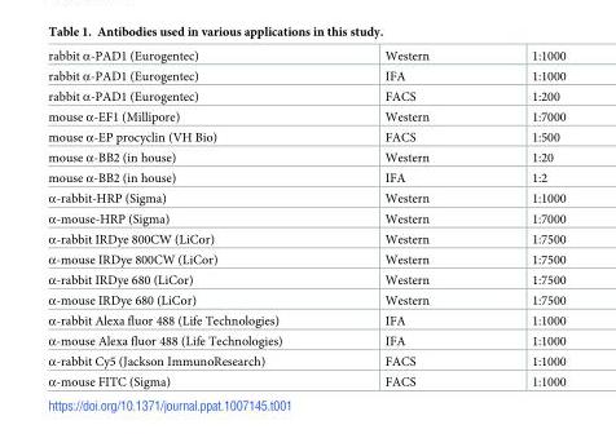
<table><tbody><tr><td>rabbit α-PAD1 (Eurogentec)</td><td>Western</td><td>1:1000</td></tr><tr><td>rabbit α-PAD1 (Eurogentec)</td><td>IFA</td><td>1:1000</td></tr><tr><td>rabbit α-PAD1 (Eurogentec)</td><td>FACS</td><td>1:200</td></tr><tr><td>mouse α-EF1 (Millipore)</td><td>Western</td><td>1:7000</td></tr><tr><td>mouse α-EP procyclin (VH Bio)</td><td>FACS</td><td>1:500</td></tr><tr><td>mouse α-BB2 (in house)</td><td>Western</td><td>1:20</td></tr><tr><td>mouse α-BB2 (in house)</td><td>IFA</td><td>1:2</td></tr><tr><td>α-rabbit-HRP (Sigma)</td><td>Western</td><td>1:1000</td></tr><tr><td>α-mouse-HRP (Sigma)</td><td>Western</td><td>1:7000</td></tr><tr><td>α-rabbit IRDye 800CW (LiCor)</td><td>Western</td><td>1:7500</td></tr><tr><td>α-mouse IRDye 800CW (LiCor)</td><td>Western</td><td>1:7500</td></tr><tr><td>α-rabbit IRDye 680 (LiCor)</td><td>Western</td><td>1:7500</td></tr><tr><td>α-mouse IRDye 680 (LiCor)</td><td>Western</td><td>1:7500</td></tr><tr><td>α-rabbit Alexa fluor 488 (Life Technologies)</td><td>IFA</td><td>1:1000</td></tr><tr><td>α-mouse Alexa fluor 488 (Life Technologies)</td><td>IFA</td><td>1:1000</td></tr><tr><td>α-rabbit Cy5 (Jackson ImmunoResearch)</td><td>FACS</td><td>1:1000</td></tr><tr><td>α-mouse FITC (Sigma)</td><td>FACS</td><td>1:1000</td></tr></tbody></table>